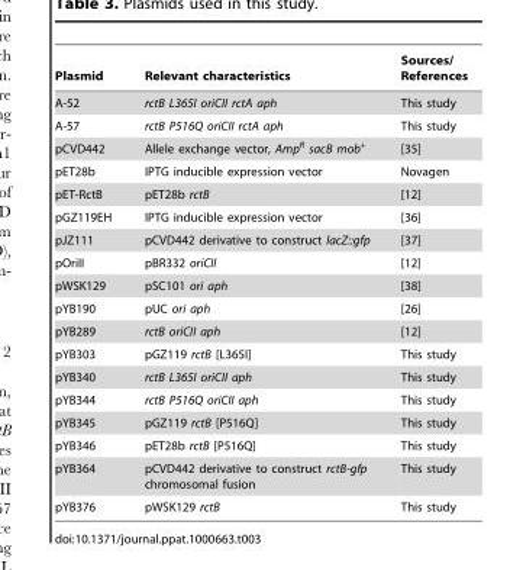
<table><thead><tr><td>Plasmid</td><td>Relevant characteristics</td><td>Sources/ References</td></tr></thead><tbody><tr><td>A-52</td><td>rctB L365I oriCII rctA aph</td><td>This study</td></tr><tr><td>A-57</td><td>rctB P516Q oriCII rctA aph</td><td>This study</td></tr><tr><td>pCVD442</td><td>Allele exchange vector, Amp<sup>R</sup> sacB mob<sup>+</sup></td><td>[35]</td></tr><tr><td>pET28b</td><td>IPTG inducible expression vector</td><td>Novagen</td></tr><tr><td>pET-RctB</td><td>pET28b rctB</td><td>[12]</td></tr><tr><td>pGZ119EH</td><td>IPTG inducible expression vector</td><td>[36]</td></tr><tr><td>pJZ111</td><td>pCVD442 derivative to construct lacZ::gfp</td><td>[37]</td></tr><tr><td>pOriII</td><td>pBR332 oriCII</td><td>[12]</td></tr><tr><td>pWSK129</td><td>pSC101 ori aph</td><td>[38]</td></tr><tr><td>pYB190</td><td>pUC ori aph</td><td>[26]</td></tr><tr><td>pYB289</td><td>rctB oriCII aph</td><td>[12]</td></tr><tr><td>pYB303</td><td>pGZ119 rctB [L365I]</td><td>This study</td></tr><tr><td>pYB340</td><td>rctB L365I oriCII aph</td><td>This study</td></tr><tr><td>pYB344</td><td>rctB P516Q oriCII aph</td><td>This study</td></tr><tr><td>pYB345</td><td>pGZ119 rctB [P516Q]</td><td>This study</td></tr><tr><td>pYB346</td><td>pET28b rctB [P516Q]</td><td>This study</td></tr><tr><td>pYB364</td><td>pCVD442 derivative to construct rctB-gfp chromosomal fusion</td><td>This study</td></tr><tr><td>pYB376</td><td>pWSK129 rctB</td><td>This study</td></tr></tbody></table>